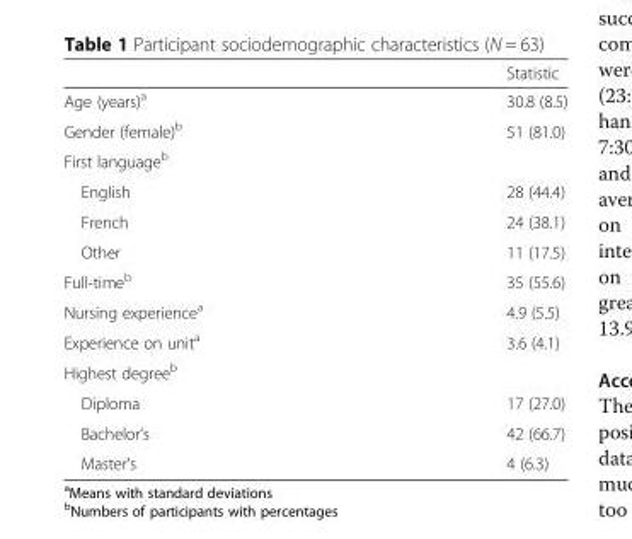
<table><thead><tr><td></td><td>Statistic</td></tr></thead><tbody><tr><td>Age (years)<sup>a</sup></td><td>30.8 (8.5)</td></tr><tr><td>Gender (female)<sup>b</sup></td><td>51 (81.0)</td></tr><tr><td colspan="2">First language<sup>b</sup></td></tr><tr><td>English</td><td>28 (44.4)</td></tr><tr><td>French</td><td>24 (38.1)</td></tr><tr><td>Other</td><td>11 (17.5)</td></tr><tr><td>Full-time<sup>b</sup></td><td>35 (55.6)</td></tr><tr><td>Nursing experience<sup>a</sup></td><td>4.9 (5.5)</td></tr><tr><td>Experience on unit<sup>a</sup></td><td>3.6 (4.1)</td></tr><tr><td colspan="2">Highest degree<sup>b</sup></td></tr><tr><td>Diploma</td><td>17 (27.0)</td></tr><tr><td>Bachelor’s</td><td>42 (66.7)</td></tr><tr><td>Master’s</td><td>4 (6.3)</td></tr></tbody></table>